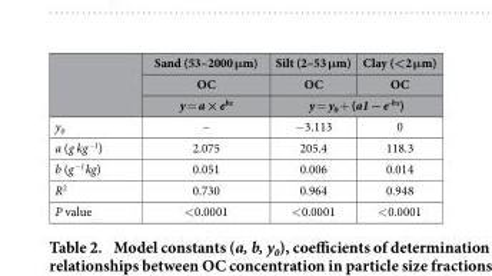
<table><thead><tr><td rowspan="3"></td><td rowspan="3">Sand (53–2000 μm) OC y = a × e<sup>bx</sup></td><td rowspan="2">Silt (2–53 μm) OC</td><td rowspan="2">Clay (&lt;2 μm) OC</td></tr><tr></tr><tr><td colspan="2">y = y<sub>0</sub> + (a1 − e<sup>-bx</sup>)</td></tr></thead><tbody><tr><td>y<sub>0</sub></td><td>–</td><td>− 3.113</td><td>0</td></tr><tr><td>a (g kg<sup>−1</sup>)</td><td>2.075</td><td>205.4</td><td>118.3</td></tr><tr><td>b (g<sup>−1</sup> kg)</td><td>0.051</td><td>0.006</td><td>0.014</td></tr><tr><td>R<sup>2</sup></td><td>0.730</td><td>0.964</td><td>0.948</td></tr><tr><td>P value</td><td>&lt; 0.0001</td><td>&lt; 0.0001</td><td>&lt; 0.0001</td></tr></tbody></table>